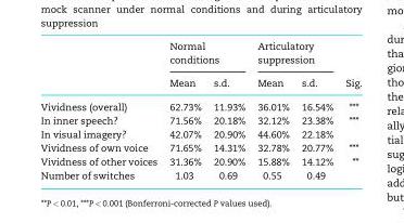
<table><thead><tr><td rowspan="2"></td><td colspan="2">Normal conditions</td><td colspan="2">Articulatory suppression</td><td rowspan="2">Sig.</td></tr><tr><td>Mean</td><td>s.d.</td><td>Mean</td><td>s.d.</td></tr></thead><tbody><tr><td>Vividness (overall)</td><td>62.73%</td><td>11.93%</td><td>36.01%</td><td>16.54%</td><td>***</td></tr><tr><td>In inner speech?</td><td>71.56%</td><td>20.18%</td><td>32.12%</td><td>23.38%</td><td>***</td></tr><tr><td>In visual imagery?</td><td>42.07%</td><td>20.90%</td><td>44.60%</td><td>22.18%</td><td></td></tr><tr><td>Vividness of own voice</td><td>71.65%</td><td>14.31%</td><td>32.78%</td><td>20.77%</td><td>***</td></tr><tr><td>Vividness of other voices</td><td>31.36%</td><td>20.90%</td><td>15.88%</td><td>14.12%</td><td>**</td></tr><tr><td>Number of switches</td><td>1.03</td><td>0.69</td><td>0.55</td><td>0.49</td><td></td></tr></tbody></table>